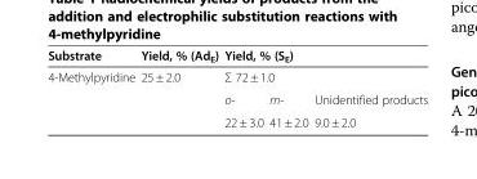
<table><thead><tr><td rowspan="3">Substrate 4-Methylpyridine</td><td rowspan="3">Yield, % (Ad<sub>E</sub>) 25 ± 2.0</td><td rowspan="2" colspan="3">Yield, % (S<sub>E</sub>) Σ 72 ± 1.0</td></tr><tr></tr><tr><td>o-</td><td>m-</td><td>Unidentified products</td></tr></thead><tbody><tr><td></td><td></td><td>22 ± 3.0</td><td>41 ± 2.0</td><td>9.0 ± 2.0</td></tr></tbody></table>